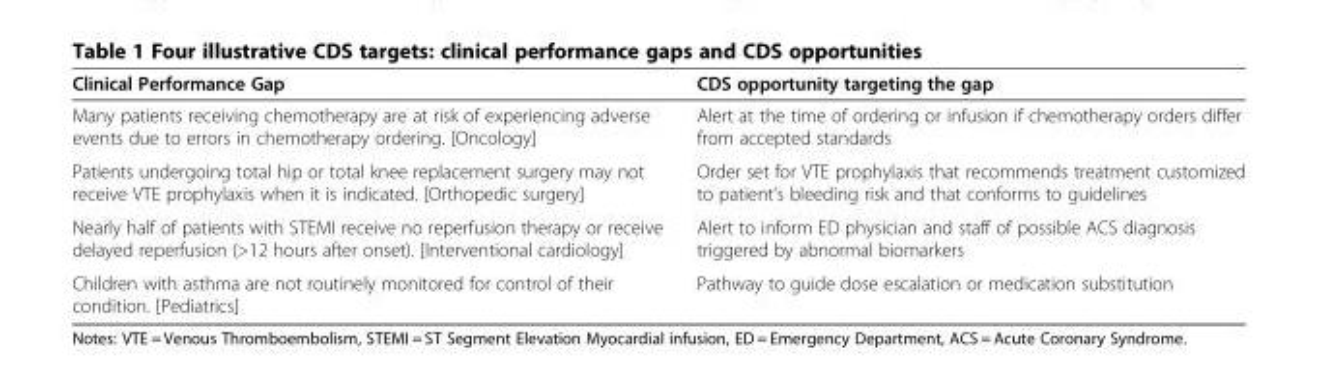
<table><thead><tr><td>Clinical Performance Gap</td><td>CDS opportunity targeting the gap</td></tr></thead><tbody><tr><td>Many patients receiving chemotherapy are at risk of experiencing adverse events due to errors in chemotherapy ordering. [Oncology]</td><td>Alert at the time of ordering or infusion if chemotherapy orders differ from accepted standards</td></tr><tr><td>Patients undergoing total hip or total knee replacement surgery may not receive VTE prophylaxis when it is indicated. [Orthopedic surgery]</td><td>Order set for VTE prophylaxis that recommends treatment customized to patient’s bleeding risk and that conforms to guidelines</td></tr><tr><td>Nearly half of patients with STEMI receive no reperfusion therapy or receive delayed reperfusion (&gt;12 hours after onset). [Interventional cardiology]</td><td>Alert to inform ED physician and staff of possible ACS diagnosis triggered by abnormal biomarkers</td></tr><tr><td>Children with asthma are not routinely monitored for control of their condition. [Pediatrics]</td><td>Pathway to guide dose escalation or medication substitution</td></tr></tbody></table>